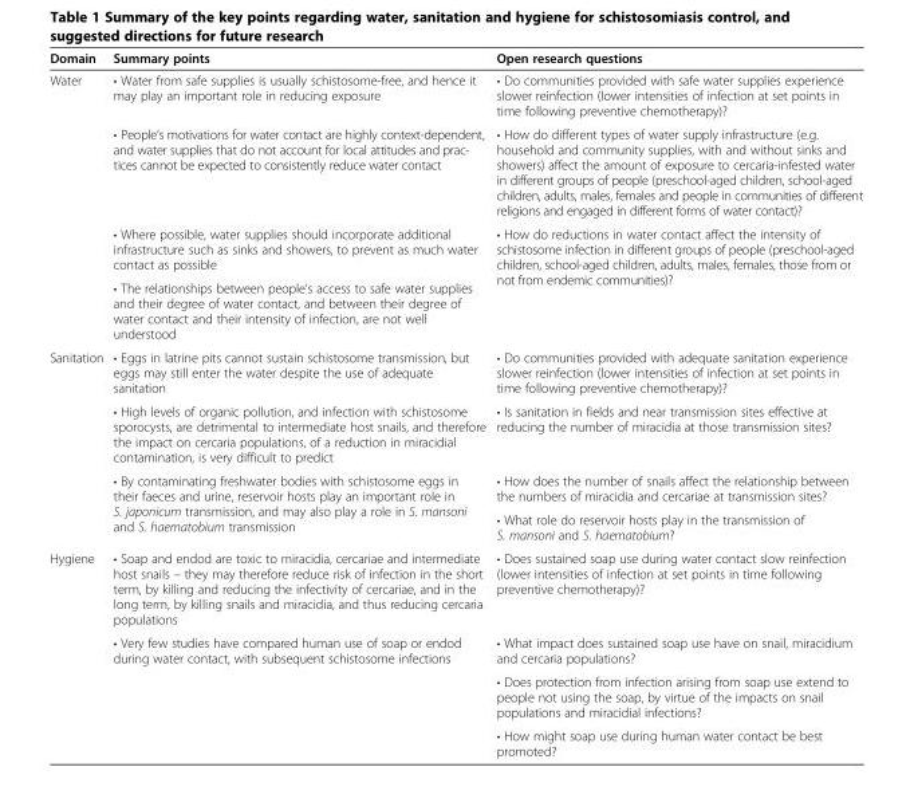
<table><thead><tr><td>Domain</td><td>Summary points</td><td>Open research questions</td></tr></thead><tbody><tr><td rowspan="4">Water</td><td>• Water from safe supplies is usually schistosome-free, and hence it may play an important role in reducing exposure</td><td>• Do communities provided with safe water supplies experience slower reinfection (lower intensities of infection at set points in time following preventive chemotherapy)?</td></tr><tr><td>• People’s motivations for water contact are highly context-dependent, and water supplies that do not account for local attitudes and prac- tices cannot be expected to consistently reduce water contact</td><td>• How do different types of water supply infrastructure (e.g. household and community supplies, with and without sinks and showers) affect the amount of exposure to cercaria-infested water in different groups of people (preschool-aged children, school-aged children, adults, males, females and people in communities of different religions and engaged in different forms of water contact)?</td></tr><tr><td>• Where possible, water supplies should incorporate additional infrastructure such as sinks and showers, to prevent as much water contact as possible</td><td rowspan="2">• How do reductions in water contact affect the intensity of schistosome infection in different groups of people (preschool-aged children, school-aged children, adults, males, females, those from or not from endemic communities)?</td></tr><tr><td>• The relationships between people’s access to safe water supplies and their degree of water contact, and between their degree of water contact and their intensity of infection, are not well understood</td></tr><tr><td rowspan="4">Sanitation</td><td>• Eggs in latrine pits cannot sustain schistosome transmission, but eggs may still enter the water despite the use of adequate sanitation</td><td>• Do communities provided with adequate sanitation experience slower reinfection (lower intensities of infection at set points in time following preventive chemotherapy)?</td></tr><tr><td>• High levels of organic pollution, and infection with schistosome sporocysts, are detrimental to intermediate host snails, and therefore the impact on cercaria populations, of a reduction in miracidial contamination, is very difficult to predict</td><td>• Is sanitation in fields and near transmission sites effective at reducing the number of miracidia at those transmission sites?</td></tr><tr><td rowspan="2">• By contaminating freshwater bodies with schistosome eggs in their faeces and urine, reservoir hosts play an important role in S. japonicum transmission, and may also play a role in S. mansoni and S. haematobium transmission</td><td>• How does the number of snails affect the relationship between the numbers of miracidia and cercariae at transmission sites?</td></tr><tr><td>• What role do reservoir hosts play in the transmission of S. mansoni and S. haematobium?</td></tr><tr><td rowspan="4">Hygiene</td><td>• Soap and endod are toxic to miracidia, cercariae and intermediate host snails – they may therefore reduce risk of infection in the short term, by killing and reducing the infectivity of cercariae, and in the long term, by killing snails and miracidia, and thus reducing cercaria populations</td><td>• Does sustained soap use during water contact slow reinfection (lower intensities of infection at set points in time following preventive chemotherapy)?</td></tr><tr><td rowspan="3">• Very few studies have compared human use of soap or endod during water contact, with subsequent schistosome infections</td><td>• What impact does sustained soap use have on snail, miracidium and cercaria populations?</td></tr><tr><td>• Does protection from infection arising from soap use extend to people not using the soap, by virtue of the impacts on snail populations and miracidial infections?</td></tr><tr><td>• How might soap use during human water contact be best promoted?</td></tr></tbody></table>